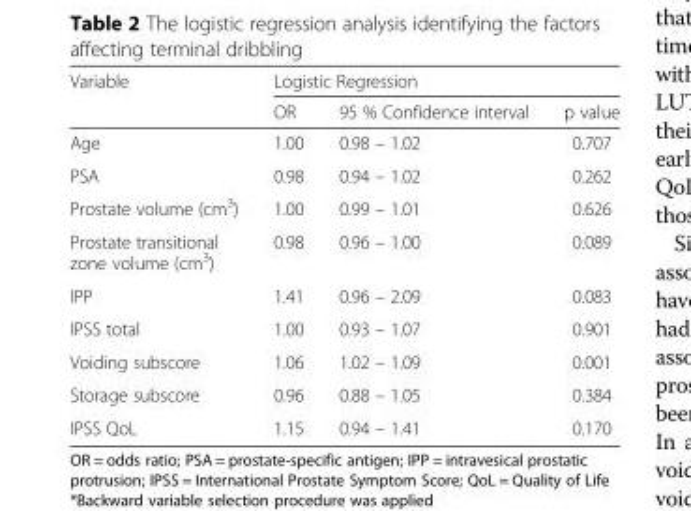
<table><thead><tr><td rowspan="2">Variable</td><td colspan="3">Logistic Regression</td></tr><tr><td>OR</td><td>95 % Confidence interval</td><td>p value</td></tr></thead><tbody><tr><td>Age</td><td>1.00</td><td>0.98 – 1.02</td><td>0.707</td></tr><tr><td>PSA</td><td>0.98</td><td>0.94 – 1.02</td><td>0.262</td></tr><tr><td>Prostate volume (cm<sup>3</sup>)</td><td>1.00</td><td>0.99 – 1.01</td><td>0.626</td></tr><tr><td>Prostate transitional zone volume (cm<sup>3</sup>)</td><td>0.98</td><td>0.96 – 1.00</td><td>0.089</td></tr><tr><td>IPP</td><td>1.41</td><td>0.96 – 2.09</td><td>0.083</td></tr><tr><td>IPSS total</td><td>1.00</td><td>0.93 – 1.07</td><td>0.901</td></tr><tr><td>Voiding subscore</td><td>1.06</td><td>1.02 – 1.09</td><td>0.001</td></tr><tr><td>Storage subscore</td><td>0.96</td><td>0.88 – 1.05</td><td>0.384</td></tr><tr><td>IPSS QoL</td><td>1.15</td><td>0.94 – 1.41</td><td>0.170</td></tr></tbody></table>